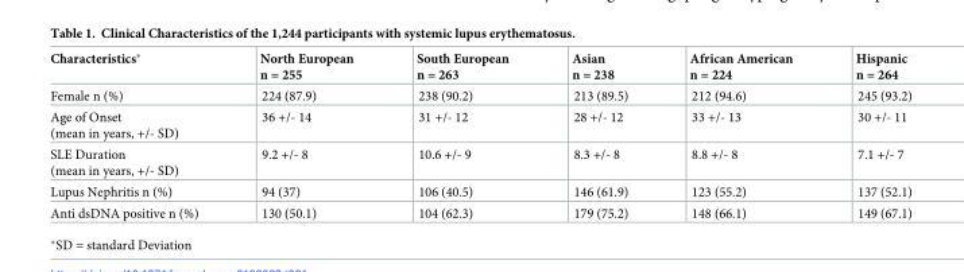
<table><thead><tr><td>Characteristics*</td><td>North European n = 255</td><td>South European n = 263</td><td>Asian n = 238</td><td>African American n = 224</td><td>Hispanic n = 264</td></tr></thead><tbody><tr><td>Female n (%)</td><td>224 (87.9)</td><td>238 (90.2)</td><td>213 (89.5)</td><td>212 (94.6)</td><td>245 (93.2)</td></tr><tr><td>Age of Onset (mean in years, +/- SD)</td><td>36 +/- 14</td><td>31 +/- 12</td><td>28 +/- 12</td><td>33 +/- 13</td><td>30 +/- 11</td></tr><tr><td>SLE Duration (mean in years, +/- SD)</td><td>9.2 +/- 8</td><td>10.6 +/- 9</td><td>8.3 +/- 8</td><td>8.8 +/- 8</td><td>7.1 +/- 7</td></tr><tr><td>Lupus Nephritis n (%)</td><td>94 (37)</td><td>106 (40.5)</td><td>146 (61.9)</td><td>123 (55.2)</td><td>137 (52.1)</td></tr><tr><td>Anti dsDNA positive n (%)</td><td>130 (50.1)</td><td>104 (62.3)</td><td>179 (75.2)</td><td>148 (66.1)</td><td>149 (67.1)</td></tr></tbody></table>